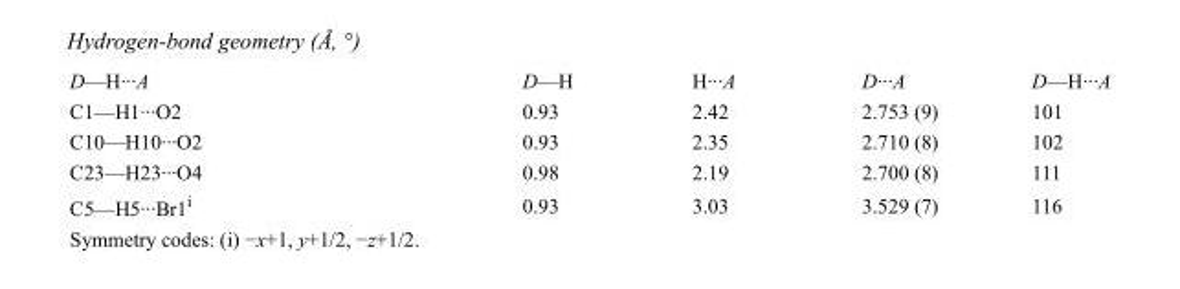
<table><tbody><tr><td>D—H···A</td><td>D—H</td><td>H···A</td><td>D···A</td><td>D—H···A</td></tr><tr><td>C1—H1···O2</td><td>0.93</td><td>2.42</td><td>2.753 (9)</td><td>101</td></tr><tr><td>C10—H10···O2</td><td>0.93</td><td>2.35</td><td>2.710 (8)</td><td>102</td></tr><tr><td>C23—H23···O4</td><td>0.98</td><td>2.19</td><td>2.700 (8)</td><td>111</td></tr><tr><td>C5—H5···Br1<sup>i</sup></td><td>0.93</td><td>3.03</td><td>3.529 (7)</td><td>116</td></tr></tbody></table>